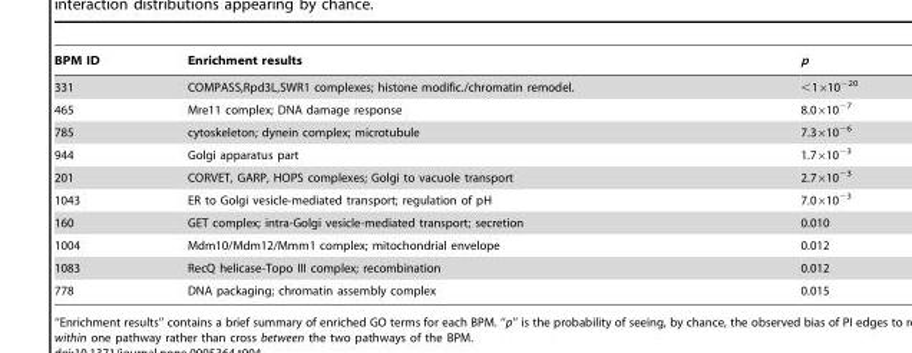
<table><thead><tr><td>BPM ID</td><td>Enrichment results</td><td>p</td></tr></thead><tbody><tr><td>331</td><td>COMPASS,Rpd3L,SWR1 complexes; histone modific./chromatin remodel.</td><td>&lt;1×10<sup>−20</sup></td></tr><tr><td>465</td><td>Mre11 complex; DNA damage response</td><td>8.0×10<sup>−7</sup></td></tr><tr><td>785</td><td>cytoskeleton; dynein complex; microtubule</td><td>7.3×10<sup>−6</sup></td></tr><tr><td>944</td><td>Golgi apparatus part</td><td>1.7×10<sup>−3</sup></td></tr><tr><td>201</td><td>CORVET, GARP, HOPS complexes; Golgi to vacuole transport</td><td>2.7×10<sup>−3</sup></td></tr><tr><td>1043</td><td>ER to Golgi vesicle-mediated transport; regulation of pH</td><td>7.0×10<sup>−3</sup></td></tr><tr><td>160</td><td>GET complex; intra-Golgi vesicle-mediated transport; secretion</td><td>0.010</td></tr><tr><td>1004</td><td>Mdm10/Mdm12/Mmm1 complex; mitochondrial envelope</td><td>0.012</td></tr><tr><td>1083</td><td>RecQ helicase-Topo III complex; recombination</td><td>0.012</td></tr><tr><td>778</td><td>DNA packaging; chromatin assembly complex</td><td>0.015</td></tr></tbody></table>